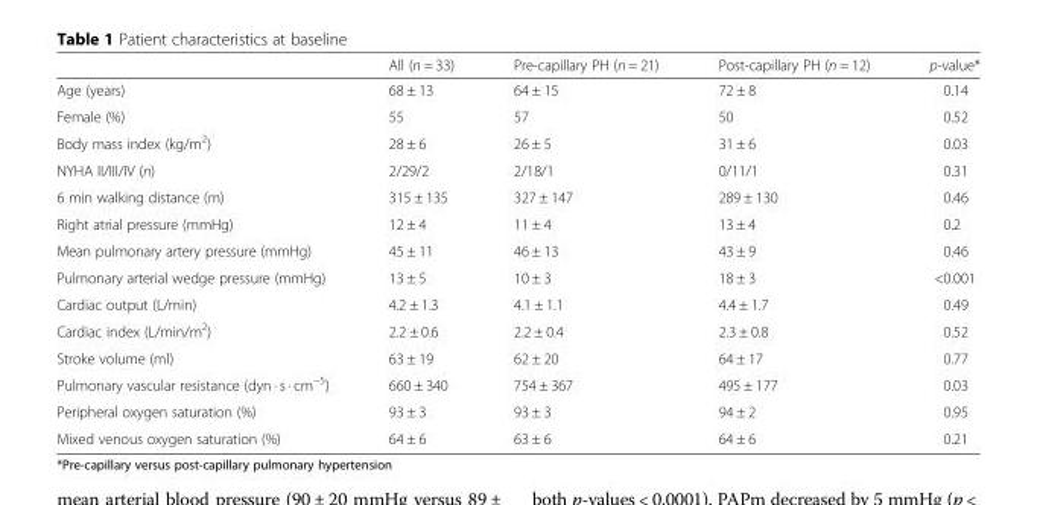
<table><thead><tr><td></td><td>All (n = 33)</td><td>Pre-capillary PH (n = 21)</td><td>Post-capillary PH (n = 12)</td><td>p-value*</td></tr></thead><tbody><tr><td>Age (years)</td><td>68 ± 13</td><td>64 ± 15</td><td>72 ± 8</td><td>0.14</td></tr><tr><td>Female (%)</td><td>55</td><td>57</td><td>50</td><td>0.52</td></tr><tr><td>Body mass index (kg/m<sup>2</sup>)</td><td>28 ± 6</td><td>26 ± 5</td><td>31 ± 6</td><td>0.03</td></tr><tr><td>NYHA II/III/IV (n)</td><td>2/29/2</td><td>2/18/1</td><td>0/11/1</td><td>0.31</td></tr><tr><td>6 min walking distance (m)</td><td>315 ± 135</td><td>327 ± 147</td><td>289 ± 130</td><td>0.46</td></tr><tr><td>Right atrial pressure (mmHg)</td><td>12 ± 4</td><td>11 ± 4</td><td>13 ± 4</td><td>0.2</td></tr><tr><td>Mean pulmonary artery pressure (mmHg)</td><td>45 ± 11</td><td>46 ± 13</td><td>43 ± 9</td><td>0.46</td></tr><tr><td>Pulmonary arterial wedge pressure (mmHg)</td><td>13 ± 5</td><td>10 ± 3</td><td>18 ± 3</td><td>&lt;0.001</td></tr><tr><td>Cardiac output (L/min)</td><td>4.2 ± 1.3</td><td>4.1 ± 1.1</td><td>4.4 ± 1.7</td><td>0.49</td></tr><tr><td>Cardiac index (L/min/m<sup>2</sup>)</td><td>2.2 ± 0.6</td><td>2.2 ± 0.4</td><td>2.3 ± 0.8</td><td>0.52</td></tr><tr><td>Stroke volume (ml)</td><td>63 ± 19</td><td>62 ± 20</td><td>64 ± 17</td><td>0.77</td></tr><tr><td>Pulmonary vascular resistance (dyn · s · cm<sup>−5</sup>)</td><td>660 ± 340</td><td>754 ± 367</td><td>495 ± 177</td><td>0.03</td></tr><tr><td>Peripheral oxygen saturation (%)</td><td>93 ± 3</td><td>93 ± 3</td><td>94 ± 2</td><td>0.95</td></tr><tr><td>Mixed venous oxygen saturation (%)</td><td>64 ± 6</td><td>63 ± 6</td><td>64 ± 6</td><td>0.21</td></tr></tbody></table>